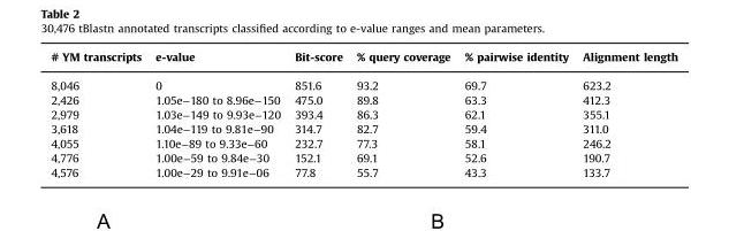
<table><thead><tr><td># YM transcripts</td><td>e-value</td><td>Bit-score</td><td>% query coverage</td><td>% pairwise identity</td><td>Alignment length</td></tr></thead><tbody><tr><td>8,046</td><td>0</td><td>851.6</td><td>93.2</td><td>69.7</td><td>623.2</td></tr><tr><td>2,426</td><td>1.05e−180 to 8.96e−150</td><td>475.0</td><td>89.8</td><td>63.3</td><td>412.3</td></tr><tr><td>2,979</td><td>1.03e−149 to 9.93e−120</td><td>393.4</td><td>86.3</td><td>62.1</td><td>355.1</td></tr><tr><td>3,618</td><td>1.04e−119 to 9.81e−90</td><td>314.7</td><td>82.7</td><td>59.4</td><td>311.0</td></tr><tr><td>4,055</td><td>1.10e−89 to 9.33e−60</td><td>232.7</td><td>77.3</td><td>58.1</td><td>246.2</td></tr><tr><td>4,776</td><td>1.00e−59 to 9.84e−30</td><td>152.1</td><td>69.1</td><td>52.6</td><td>190.7</td></tr><tr><td>4,576</td><td>1.00e−29 to 9.91e−06</td><td>77.8</td><td>55.7</td><td>43.3</td><td>133.7</td></tr></tbody></table>